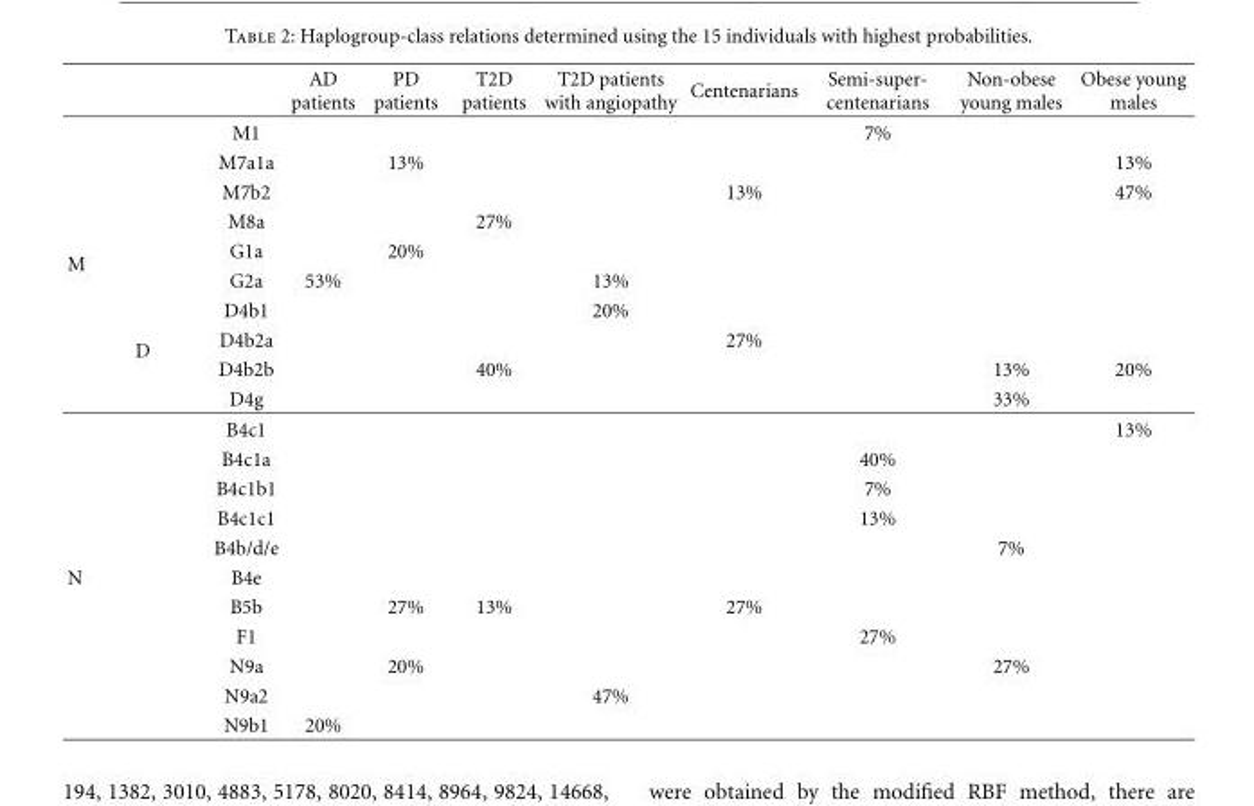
<table><thead><tr><td></td><td></td><td></td><td>AD patients</td><td>PD patients</td><td>T2D patients</td><td>T2D patients with angiopathy</td><td>Centenarians</td><td>Semi-super- centenarians</td><td>Non-obese young males</td><td>Obese young males</td></tr></thead><tbody><tr><td rowspan="10">M</td><td></td><td>M1</td><td></td><td></td><td></td><td></td><td></td><td>7%</td><td></td><td></td></tr><tr><td></td><td>M7a1a</td><td></td><td>13%</td><td></td><td></td><td></td><td></td><td></td><td>13%</td></tr><tr><td></td><td>M7b2</td><td></td><td></td><td></td><td></td><td>13%</td><td></td><td></td><td>47%</td></tr><tr><td></td><td>M8a</td><td></td><td></td><td>27%</td><td></td><td></td><td></td><td></td><td></td></tr><tr><td></td><td>G1a</td><td></td><td>20%</td><td></td><td></td><td></td><td></td><td></td><td></td></tr><tr><td></td><td>G2a</td><td>53%</td><td></td><td></td><td>13%</td><td></td><td></td><td></td><td></td></tr><tr><td rowspan="4">D</td><td>D4b1</td><td></td><td></td><td></td><td>20%</td><td></td><td></td><td></td><td></td></tr><tr><td>D4b2a</td><td></td><td></td><td></td><td></td><td>27%</td><td></td><td></td><td></td></tr><tr><td>D4b2b</td><td></td><td></td><td>40%</td><td></td><td></td><td></td><td>13%</td><td>20%</td></tr><tr><td>D4g</td><td></td><td></td><td></td><td></td><td></td><td></td><td>33%</td><td></td></tr><tr><td colspan="2"></td><td>B4c1</td><td></td><td></td><td></td><td></td><td></td><td></td><td></td><td>13%</td></tr><tr><td colspan="2"></td><td>B4c1a</td><td></td><td></td><td></td><td></td><td></td><td>40%</td><td></td><td></td></tr><tr><td colspan="2"></td><td>B4c1b1</td><td></td><td></td><td></td><td></td><td></td><td>7%</td><td></td><td></td></tr><tr><td colspan="2"></td><td>B4c1c1</td><td></td><td></td><td></td><td></td><td></td><td>13%</td><td></td><td></td></tr><tr><td colspan="2"></td><td>B4b/d/e</td><td></td><td></td><td></td><td></td><td></td><td></td><td>7%</td><td></td></tr><tr><td rowspan="6" colspan="2">N</td><td>B4e</td><td></td><td></td><td></td><td></td><td></td><td></td><td></td><td></td></tr><tr><td>B5b</td><td></td><td>27%</td><td>13%</td><td></td><td>27%</td><td></td><td></td><td></td></tr><tr><td>F1</td><td></td><td></td><td></td><td></td><td></td><td>27%</td><td></td><td></td></tr><tr><td>N9a</td><td></td><td>20%</td><td></td><td></td><td></td><td></td><td>27%</td><td></td></tr><tr><td>N9a2</td><td></td><td></td><td></td><td>47%</td><td></td><td></td><td></td><td></td></tr><tr><td>N9b1</td><td>20%</td><td></td><td></td><td></td><td></td><td></td><td></td><td></td></tr></tbody></table>